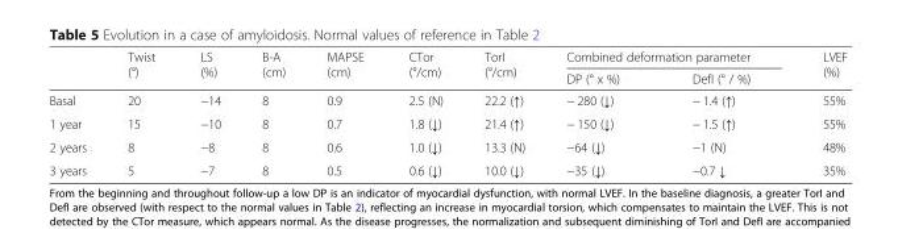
<table><thead><tr><td rowspan="2"></td><td rowspan="2">Twist (°)</td><td rowspan="2">LS (%)</td><td rowspan="2">B-A (cm)</td><td rowspan="2">MAPSE (cm)</td><td rowspan="2">CTor (°/cm)</td><td rowspan="2">TorI (°/cm)</td><td colspan="2">Combined deformation parameter</td><td rowspan="2">LVEF (%)</td></tr><tr><td>DP (° x %)</td><td>DefI (° / %)</td></tr></thead><tbody><tr><td>Basal</td><td>20</td><td>−14</td><td>8</td><td>0.9</td><td>2.5 (N)</td><td>22.2 (↑)</td><td>− 280 (↓)</td><td>− 1.4 (↑)</td><td>55%</td></tr><tr><td>1 year</td><td>15</td><td>−10</td><td>8</td><td>0.7</td><td>1.8 (↓)</td><td>21.4 (↑)</td><td>− 150 (↓)</td><td>− 1.5 (↑)</td><td>55%</td></tr><tr><td>2 years</td><td>8</td><td>−8</td><td>8</td><td>0.6</td><td>1.0 (↓)</td><td>13.3 (N)</td><td>−64 (↓)</td><td>−1 (N)</td><td>48%</td></tr><tr><td>3 years</td><td>5</td><td>−7</td><td>8</td><td>0.5</td><td>0.6 (↓)</td><td>10.0 (↓)</td><td>−35 (↓)</td><td>−0.7 ↓</td><td>35%</td></tr></tbody></table>